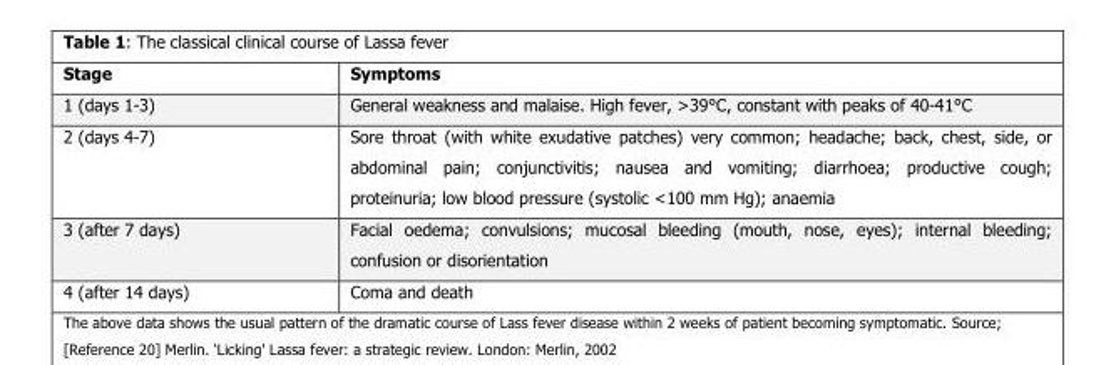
<table><thead><tr><td>Stage</td><td>Symptoms</td></tr></thead><tbody><tr><td>1 (days 1-3)</td><td>General weakness and malaise. High fever, &gt;39°C, constant with peaks of 40-41°C</td></tr><tr><td>2 (days 4-7)</td><td>Sore throat (with white exudative patches) very common; headache; back, chest, side, or abdominal pain; conjunctivitis; nausea and vomiting; diarrhoea; productive cough; proteinuria; low blood pressure (systolic &lt;100 mm Hg); anaemia</td></tr><tr><td>3 (after 7 days)</td><td>Facial oedema; convulsions; mucosal bleeding (mouth, nose, eyes); internal bleeding; confusion or disorientation</td></tr><tr><td>4 (after 14 days)</td><td>Coma and death</td></tr></tbody></table>